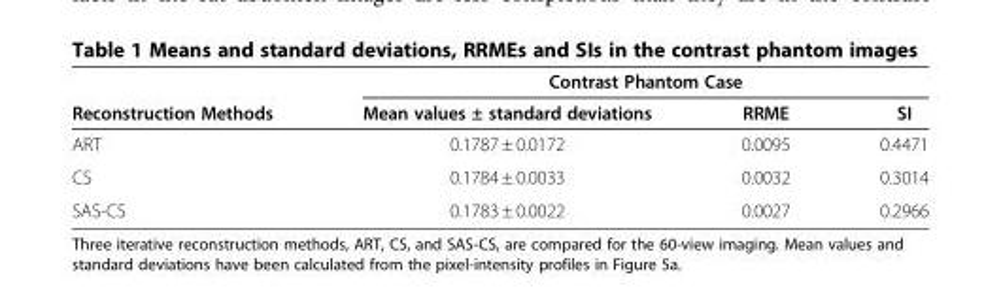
<table><thead><tr><td rowspan="2">Reconstruction Methods</td><td colspan="3">Contrast Phantom Case</td></tr><tr><td>Mean values ± standard deviations</td><td>RRME</td><td>SI</td></tr></thead><tbody><tr><td>ART</td><td>0.1787 ± 0.0172</td><td>0.0095</td><td>0.4471</td></tr><tr><td>CS</td><td>0.1784 ± 0.0033</td><td>0.0032</td><td>0.3014</td></tr><tr><td>SAS-CS</td><td>0.1783 ± 0.0022</td><td>0.0027</td><td>0.2966</td></tr></tbody></table>